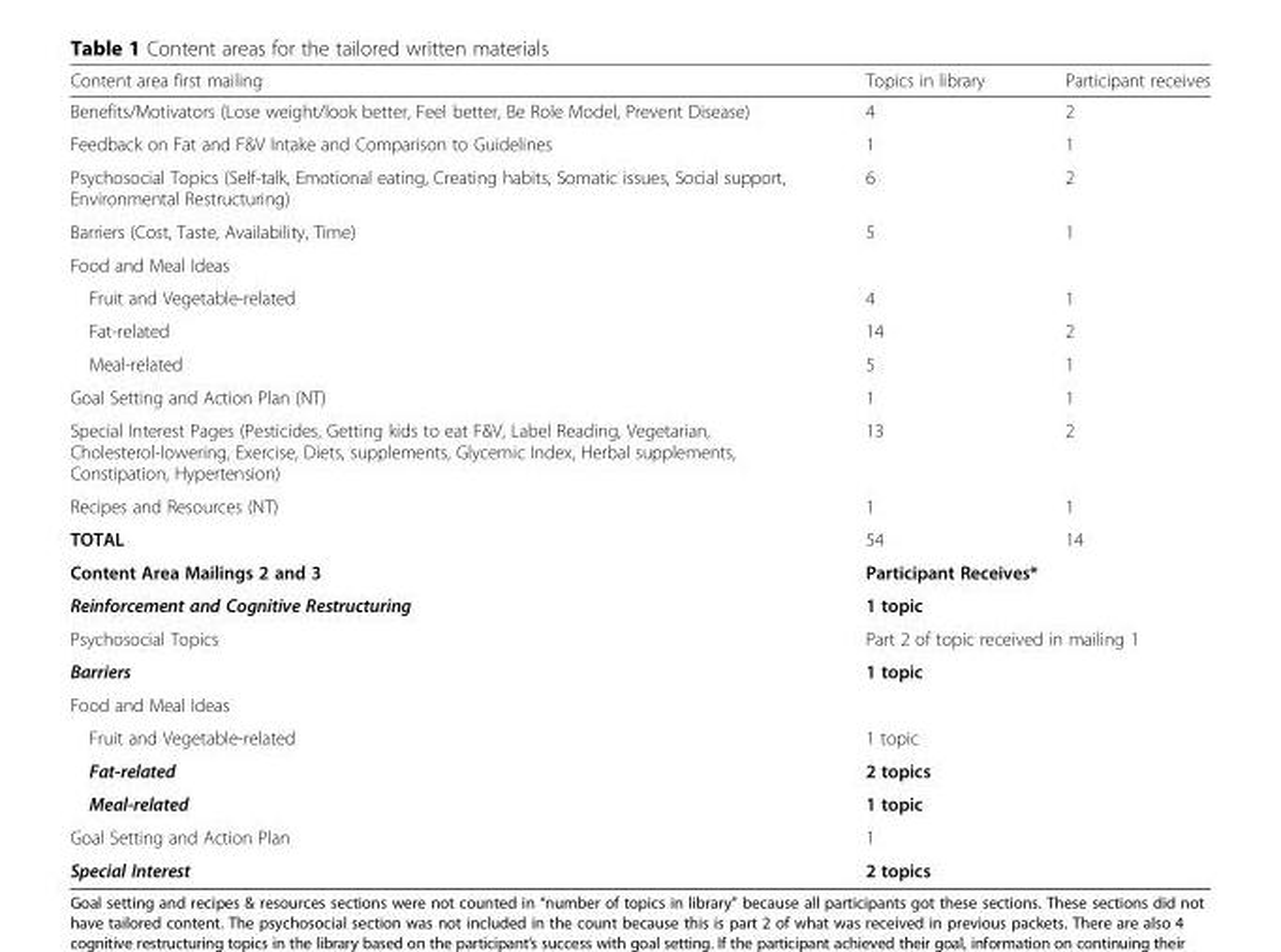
<table><thead><tr><td>Content area first mailing</td><td>Topics in library</td><td>Participant receives</td></tr></thead><tbody><tr><td>Benefits/Motivators (Lose weight/look better, Feel better, Be Role Model, Prevent Disease)</td><td>4</td><td>2</td></tr><tr><td>Feedback on Fat and F&amp;V Intake and Comparison to Guidelines</td><td>1</td><td>1</td></tr><tr><td>Psychosocial Topics (Self-talk, Emotional eating, Creating habits, Somatic issues, Social support, Environmental Restructuring)</td><td>6</td><td>2</td></tr><tr><td>Barriers (Cost, Taste, Availability, Time)</td><td>5</td><td>1</td></tr><tr><td colspan="3">Food and Meal Ideas</td></tr><tr><td>Fruit and Vegetable-related</td><td>4</td><td>1</td></tr><tr><td>Fat-related</td><td>14</td><td>2</td></tr><tr><td>Meal-related</td><td>5</td><td>1</td></tr><tr><td>Goal Setting and Action Plan (NT)</td><td>1</td><td>1</td></tr><tr><td>Special Interest Pages (Pesticides, Getting kids to eat F&amp;V, Label Reading, Vegetarian, Cholesterol-lowering, Exercise, Diets, supplements, Glycemic Index, Herbal supplements, Constipation, Hypertension)</td><td>13</td><td>2</td></tr><tr><td>Recipes and Resources (NT)</td><td>1</td><td>1</td></tr><tr><td>TOTAL</td><td>54</td><td>14</td></tr><tr><td>Content Area Mailings 2 and 3</td><td colspan="2">Participant Receives*</td></tr><tr><td>Reinforcement and Cognitive Restructuring</td><td colspan="2">1 topic</td></tr><tr><td>Psychosocial Topics</td><td colspan="2">Part 2 of topic received in mailing 1</td></tr><tr><td>Barriers</td><td colspan="2">1 topic</td></tr><tr><td colspan="3">Food and Meal Ideas</td></tr><tr><td>Fruit and Vegetable-related</td><td colspan="2">1 topic</td></tr><tr><td>Fat-related</td><td colspan="2">2 topics</td></tr><tr><td>Meal-related</td><td colspan="2">1 topic</td></tr><tr><td>Goal Setting and Action Plan</td><td colspan="2">1</td></tr><tr><td>Special Interest</td><td colspan="2">2 topics</td></tr></tbody></table>